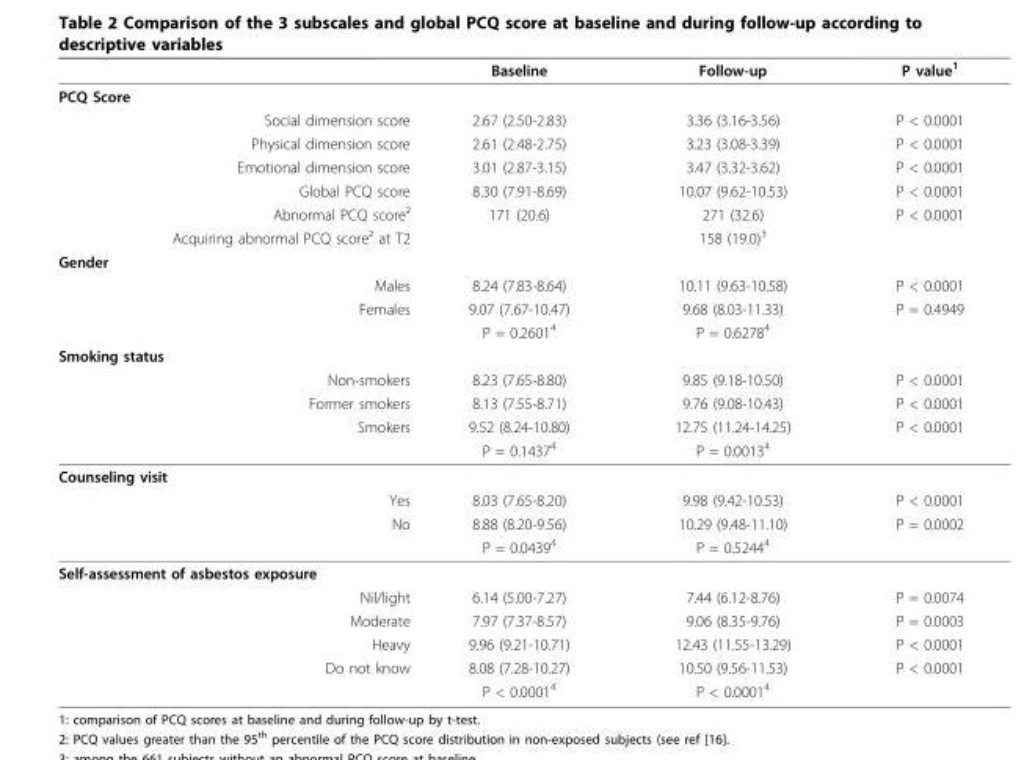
<table><thead><tr><td></td><td>Baseline</td><td>Follow-up</td><td>P value<sup>1</sup></td></tr></thead><tbody><tr><td colspan="4">PCQ Score</td></tr><tr><td>Social dimension score</td><td>2.67 (2.50-2.83)</td><td>3.36 (3.16-3.56)</td><td>P &lt; 0.0001</td></tr><tr><td>Physical dimension score</td><td>2.61 (2.48-2.75)</td><td>3.23 (3.08-3.39)</td><td>P &lt; 0.0001</td></tr><tr><td>Emotional dimension score</td><td>3.01 (2.87-3.15)</td><td>3.47 (3.32-3.62)</td><td>P &lt; 0.0001</td></tr><tr><td>Global PCQ score</td><td>8.30 (7.91-8.69)</td><td>10.07 (9.62-10.53)</td><td>P &lt; 0.0001</td></tr><tr><td>Abnormal PCQ score²</td><td>171 (20.6)</td><td>271 (32.6)</td><td>P &lt; 0.0001</td></tr><tr><td>Acquiring abnormal PCQ score² at T2</td><td></td><td>158 (19.0)<sup>3</sup></td><td></td></tr><tr><td colspan="4">Gender</td></tr><tr><td>Males</td><td>8.24 (7.83-8.64)</td><td>10.11 (9.63-10.58)</td><td>P &lt; 0.0001</td></tr><tr><td rowspan="2">Females</td><td>9.07 (7.67-10.47)</td><td>9.68 (8.03-11.33)</td><td>P = 0.4949</td></tr><tr><td>P = 0.2601<sup>4</sup></td><td>P = 0.6278<sup>4</sup></td><td></td></tr><tr><td colspan="4">Smoking status</td></tr><tr><td>Non-smokers</td><td>8.23 (7.65-8.80)</td><td>9.85 (9.18-10.50)</td><td>P &lt; 0.0001</td></tr><tr><td>Former smokers</td><td>8.13 (7.55-8.71)</td><td>9.76 (9.08-10.43)</td><td>P &lt; 0.0001</td></tr><tr><td rowspan="2">Smokers</td><td>9.52 (8.24-10.80)</td><td>12.75 (11.24-14.25)</td><td>P &lt; 0.0001</td></tr><tr><td>P = 0.1437<sup>4</sup></td><td>P = 0.0013<sup>4</sup></td><td></td></tr><tr><td colspan="4">Counseling visit</td></tr><tr><td>Yes</td><td>8.03 (7.65-8.20)</td><td>9.98 (9.42-10.53)</td><td>P &lt; 0.0001</td></tr><tr><td rowspan="2">No</td><td>8.88 (8.20-9.56)</td><td>10.29 (9.48-11.10)</td><td>P = 0.0002</td></tr><tr><td>P = 0.0439<sup>4</sup></td><td>P = 0.5244<sup>4</sup></td><td></td></tr><tr><td colspan="4">Self-assessment of asbestos exposure</td></tr><tr><td>Nil/light</td><td>6.14 (5.00-7.27)</td><td>7.44 (6.12-8.76)</td><td>P = 0.0074</td></tr><tr><td>Moderate</td><td>7.97 (7.37-8.57)</td><td>9.06 (8.35-9.76)</td><td>P = 0.0003</td></tr><tr><td>Heavy</td><td>9.96 (9.21-10.71)</td><td>12.43 (11.55-13.29)</td><td>P &lt; 0.0001</td></tr><tr><td rowspan="2">Do not know</td><td>8.08 (7.28-10.27)</td><td>10.50 (9.56-11.53)</td><td>P &lt; 0.0001</td></tr><tr><td>P &lt; 0.0001<sup>4</sup></td><td>P &lt; 0.0001<sup>4</sup></td><td></td></tr></tbody></table>